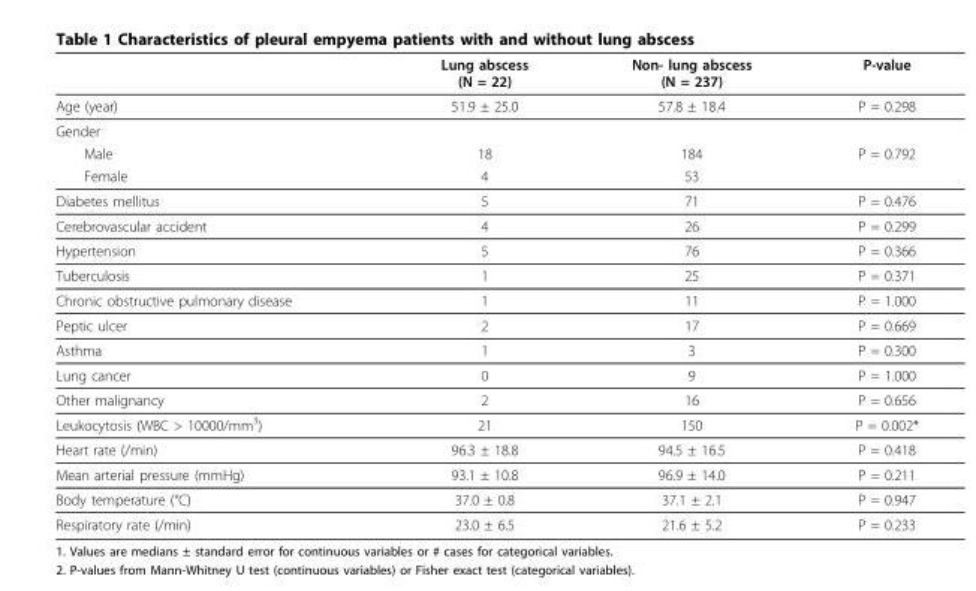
<table><thead><tr><td></td><td>Lung abscess (N = 22)</td><td>Non- lung abscess (N = 237)</td><td>P-value</td></tr></thead><tbody><tr><td>Age (year)</td><td>51.9 ± 25.0</td><td>57.8 ± 18.4</td><td>P = 0.298</td></tr><tr><td colspan="4">Gender</td></tr><tr><td>Male</td><td>18</td><td>184</td><td>P = 0.792</td></tr><tr><td>Female</td><td>4</td><td>53</td><td></td></tr><tr><td>Diabetes mellitus</td><td>5</td><td>71</td><td>P = 0.476</td></tr><tr><td>Cerebrovascular accident</td><td>4</td><td>26</td><td>P = 0.299</td></tr><tr><td>Hypertension</td><td>5</td><td>76</td><td>P = 0.366</td></tr><tr><td>Tuberculosis</td><td>1</td><td>25</td><td>P = 0.371</td></tr><tr><td>Chronic obstructive pulmonary disease</td><td>1</td><td>11</td><td>P = 1.000</td></tr><tr><td>Peptic ulcer</td><td>2</td><td>17</td><td>P = 0.669</td></tr><tr><td>Asthma</td><td>1</td><td>3</td><td>P = 0.300</td></tr><tr><td>Lung cancer</td><td>0</td><td>9</td><td>P = 1.000</td></tr><tr><td>Other malignancy</td><td>2</td><td>16</td><td>P = 0.656</td></tr><tr><td>Leukocytosis (WBC &gt; 10000/mm<sup>3</sup>)</td><td>21</td><td>150</td><td>P = 0.002*</td></tr><tr><td>Heart rate (/min)</td><td>96.3 ± 18.8</td><td>94.5 ± 16.5</td><td>P = 0.418</td></tr><tr><td>Mean arterial pressure (mmHg)</td><td>93.1 ± 10.8</td><td>96.9 ± 14.0</td><td>P = 0.211</td></tr><tr><td>Body temperature (°C)</td><td>37.0 ± 0.8</td><td>37.1 ± 2.1</td><td>P = 0.947</td></tr><tr><td>Respiratory rate (/min)</td><td>23.0 ± 6.5</td><td>21.6 ± 5.2</td><td>P = 0.233</td></tr></tbody></table>